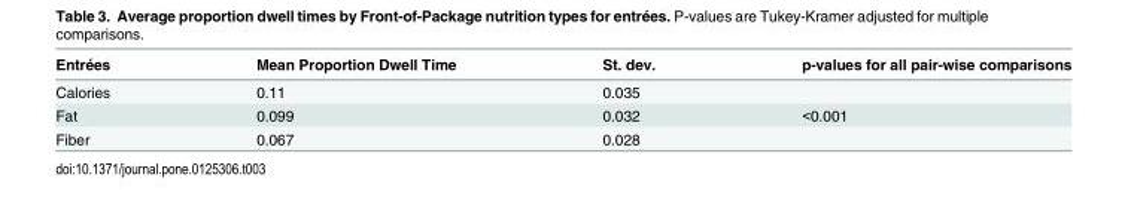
<table><thead><tr><td>Entrées</td><td>Mean Proportion Dwell Time</td><td>St. dev.</td><td>p-values for all pair-wise comparisons</td></tr></thead><tbody><tr><td>Calories</td><td>0.11</td><td>0.035</td><td></td></tr><tr><td>Fat</td><td>0.099</td><td>0.032</td><td>&lt;0.001</td></tr><tr><td>Fiber</td><td>0.067</td><td>0.028</td><td></td></tr></tbody></table>